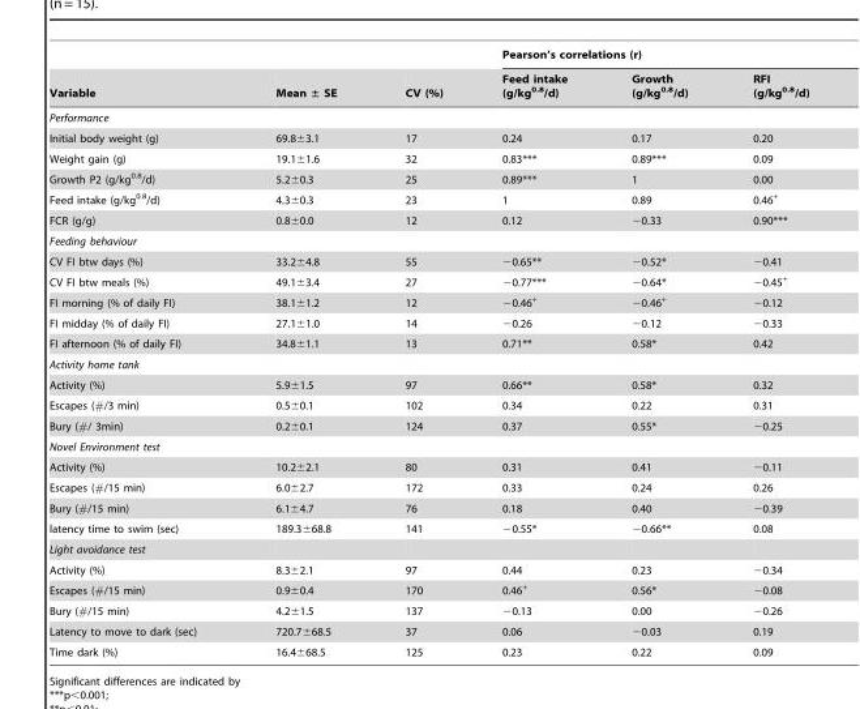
<table><thead><tr><td rowspan="2">Variable</td><td rowspan="2">Mean ± SE</td><td rowspan="2">CV (%)</td><td colspan="3">Pearson’s correlations (r)</td></tr><tr><td>Feed intake (g/kg<sup>0.8</sup>/d)</td><td>Growth (g/kg<sup>0.8</sup>/d)</td><td>RFI (g/kg<sup>0.8</sup>/d)</td></tr></thead><tbody><tr><td colspan="6">Performance</td></tr><tr><td>Initial body weight (g)</td><td>69.8±3.1</td><td>17</td><td>0.24</td><td>0.17</td><td>0.20</td></tr><tr><td>Weight gain (g)</td><td>19.1±1.6</td><td>32</td><td>0.83***</td><td>0.89***</td><td>0.09</td></tr><tr><td>Growth P2 (g/kg<sup>0.8</sup>/d)</td><td>5.2±0.3</td><td>25</td><td>0.89***</td><td>1</td><td>0.00</td></tr><tr><td>Feed intake (g/kg<sup>0.8</sup>/d)</td><td>4.3±0.3</td><td>23</td><td>1</td><td>0.89</td><td>0.46+</td></tr><tr><td>FCR (g/g)</td><td>0.8±0.0</td><td>12</td><td>0.12</td><td>−0.33</td><td>0.90***</td></tr><tr><td colspan="6">Feeding behaviour</td></tr><tr><td>CV FI btw days (%)</td><td>33.2±4.8</td><td>55</td><td>−0.65**</td><td>−0.52*</td><td>−0.41</td></tr><tr><td>CV FI btw meals (%)</td><td>49.1±3.4</td><td>27</td><td>−0.77***</td><td>−0.64*</td><td>−0.45+</td></tr><tr><td>FI morning (% of daily FI)</td><td>38.1±1.2</td><td>12</td><td>−0.46+</td><td>−0.46+</td><td>−0.12</td></tr><tr><td>FI midday (% of daily FI)</td><td>27.1±1.0</td><td>14</td><td>−0.26</td><td>−0.12</td><td>−0.33</td></tr><tr><td>FI afternoon (% of daily FI)</td><td>34.8±1.1</td><td>13</td><td>0.71**</td><td>0.58*</td><td>0.42</td></tr><tr><td colspan="6">Activity home tank</td></tr><tr><td>Activity (%)</td><td>5.9±1.5</td><td>97</td><td>0.66**</td><td>0.58*</td><td>0.32</td></tr><tr><td>Escapes (#/3 min)</td><td>0.5±0.1</td><td>102</td><td>0.34</td><td>0.22</td><td>0.31</td></tr><tr><td>Bury (#/ 3min)</td><td>0.2±0.1</td><td>124</td><td>0.37</td><td>0.55*</td><td>−0.25</td></tr><tr><td colspan="6">Novel Environment test</td></tr><tr><td>Activity (%)</td><td>10.2±2.1</td><td>80</td><td>0.31</td><td>0.41</td><td>−0.11</td></tr><tr><td>Escapes (#/15 min)</td><td>6.0±2.7</td><td>172</td><td>0.33</td><td>0.24</td><td>0.26</td></tr><tr><td>Bury (#/15 min)</td><td>6.1±4.7</td><td>76</td><td>0.18</td><td>0.40</td><td>−0.39</td></tr><tr><td>latency time to swim (sec)</td><td>189.3±68.8</td><td>141</td><td>−0.55*</td><td>−0.66**</td><td>0.08</td></tr><tr><td colspan="6">Light avoidance test</td></tr><tr><td>Activity (%)</td><td>8.3±2.1</td><td>97</td><td>0.44</td><td>0.23</td><td>−0.34</td></tr><tr><td>Escapes (#/15 min)</td><td>0.9±0.4</td><td>170</td><td>0.46+</td><td>0.56*</td><td>−0.08</td></tr><tr><td>Bury (#/15 min)</td><td>4.2±1.5</td><td>137</td><td>−0.13</td><td>0.00</td><td>−0.26</td></tr><tr><td>Latency to move to dark (sec)</td><td>720.7±68.5</td><td>37</td><td>0.06</td><td>−0.03</td><td>0.19</td></tr><tr><td>Time dark (%)</td><td>16.4±68.5</td><td>125</td><td>0.23</td><td>0.22</td><td>0.09</td></tr></tbody></table>